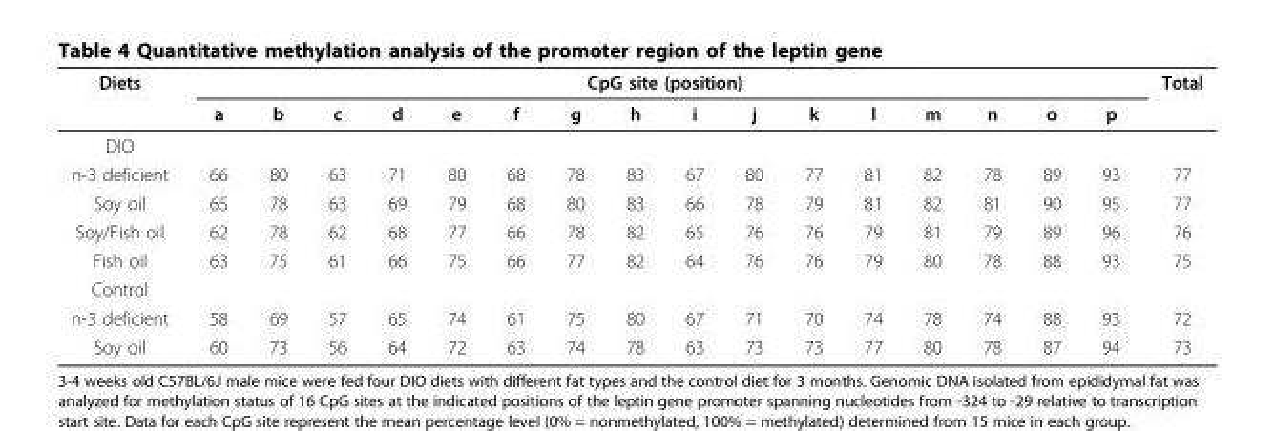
<table><thead><tr><td rowspan="2">Diets</td><td colspan="16">CpG site (position)</td><td rowspan="2">Total</td></tr><tr><td>a</td><td>b</td><td>c</td><td>d</td><td>e</td><td>f</td><td>g</td><td>h</td><td>i</td><td>j</td><td>k</td><td>l</td><td>m</td><td>n</td><td>o</td><td>p</td></tr></thead><tbody><tr><td colspan="18">DIO</td></tr><tr><td>n-3 deficient</td><td>66</td><td>80</td><td>63</td><td>71</td><td>80</td><td>68</td><td>78</td><td>83</td><td>67</td><td>80</td><td>77</td><td>81</td><td>82</td><td>78</td><td>89</td><td>93</td><td>77</td></tr><tr><td>Soy oil</td><td>65</td><td>78</td><td>63</td><td>69</td><td>79</td><td>68</td><td>80</td><td>83</td><td>66</td><td>78</td><td>79</td><td>81</td><td>82</td><td>81</td><td>90</td><td>95</td><td>77</td></tr><tr><td>Soy/Fish oil</td><td>62</td><td>78</td><td>62</td><td>68</td><td>77</td><td>66</td><td>78</td><td>82</td><td>65</td><td>76</td><td>76</td><td>79</td><td>81</td><td>79</td><td>89</td><td>96</td><td>76</td></tr><tr><td>Fish oil</td><td>63</td><td>75</td><td>61</td><td>66</td><td>75</td><td>66</td><td>77</td><td>82</td><td>64</td><td>76</td><td>76</td><td>79</td><td>80</td><td>78</td><td>88</td><td>93</td><td>75</td></tr><tr><td colspan="18">Control</td></tr><tr><td>n-3 deficient</td><td>58</td><td>69</td><td>57</td><td>65</td><td>74</td><td>61</td><td>75</td><td>80</td><td>67</td><td>71</td><td>70</td><td>74</td><td>78</td><td>74</td><td>88</td><td>93</td><td>72</td></tr><tr><td>Soy oil</td><td>60</td><td>73</td><td>56</td><td>64</td><td>72</td><td>63</td><td>74</td><td>78</td><td>63</td><td>73</td><td>73</td><td>77</td><td>80</td><td>78</td><td>87</td><td>94</td><td>73</td></tr></tbody></table>